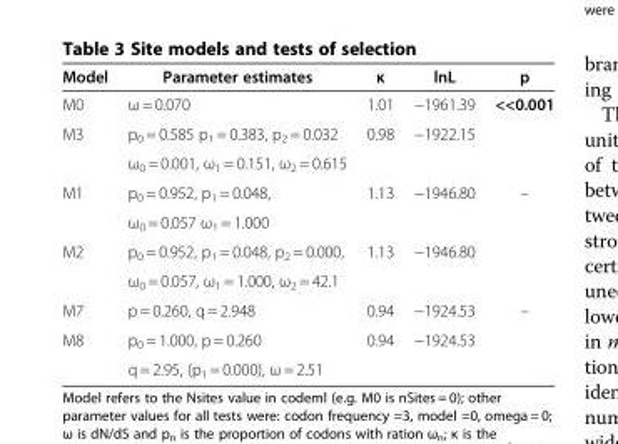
<table><thead><tr><td>Model</td><td>Parameter estimates</td><td>ĸ</td><td>lnL</td><td>p</td></tr></thead><tbody><tr><td>M0</td><td>ω = 0.070</td><td>1.01</td><td>−1961.39</td><td>&lt;&lt;0.001</td></tr><tr><td rowspan="2">M3</td><td>p<sub>0</sub> = 0.585 p<sub>1</sub> = 0.383, p<sub>2</sub> = 0.032</td><td>0.98</td><td>−1922.15</td><td></td></tr><tr><td>ω<sub>0</sub> = 0.001, ω<sub>1</sub> = 0.151, ω<sub>2</sub> = 0.615</td><td></td><td></td><td></td></tr><tr><td rowspan="2">M1</td><td>p<sub>0</sub> = 0.952, p<sub>1</sub> = 0.048,</td><td>1.13</td><td>−1946.80</td><td>–</td></tr><tr><td>ω<sub>0</sub> = 0.057 ω<sub>1</sub> = 1.000</td><td></td><td></td><td></td></tr><tr><td rowspan="2">M2</td><td>p<sub>0</sub> = 0.952, p<sub>1</sub> = 0.048, p<sub>2</sub> = 0.000,</td><td>1.13</td><td>−1946.80</td><td></td></tr><tr><td>ω<sub>0</sub> = 0.057, ω<sub>1</sub> = 1.000, ω<sub>2</sub> = 42.1</td><td></td><td></td><td></td></tr><tr><td>M7</td><td>p = 0.260, q = 2.948</td><td>0.94</td><td>−1924.53</td><td>–</td></tr><tr><td rowspan="2">M8</td><td>p<sub>0</sub> = 1.000, p = 0.260</td><td>0.94</td><td>−1924.53</td><td></td></tr><tr><td>q = 2.95, (p<sub>1</sub> = 0.000), ω = 2.51</td><td></td><td></td><td></td></tr></tbody></table>